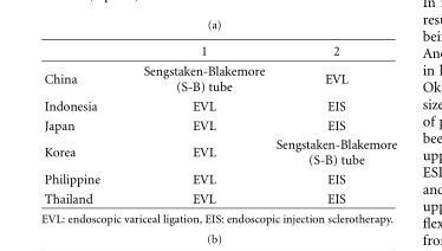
<table><thead><tr><td></td><td>1</td><td>2</td></tr></thead><tbody><tr><td>China</td><td>Sengstaken-Blakemore (S-B) tube</td><td>EVL</td></tr><tr><td>Indonesia</td><td>EVL</td><td>EIS</td></tr><tr><td>Japan</td><td>EVL</td><td>EIS</td></tr><tr><td>Korea</td><td>EVL</td><td>Sengstaken-Blakemore (S-B) tube</td></tr><tr><td>Philippine</td><td>EVL</td><td>EIS</td></tr><tr><td>Thailand</td><td>EVL</td><td>EIS</td></tr></tbody></table>